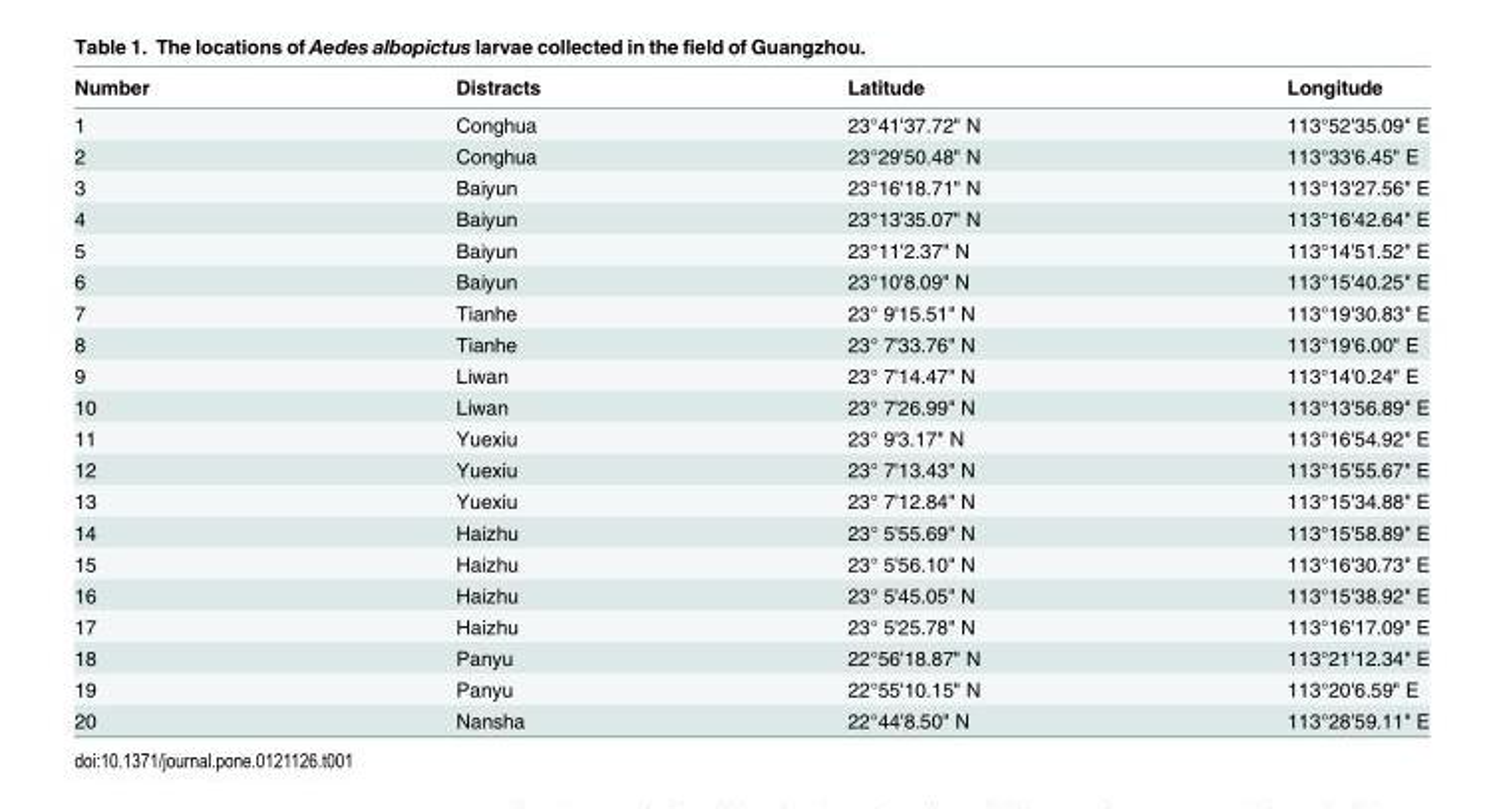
<table><thead><tr><td>Number</td><td>Distracts</td><td>Latitude</td><td>Longitude</td></tr></thead><tbody><tr><td>1</td><td>Conghua</td><td>23°41&#x27;37.72&quot; N</td><td>113°52&#x27;35.09&quot; E</td></tr><tr><td>2</td><td>Conghua</td><td>23°29&#x27;50.48&quot; N</td><td>113°33&#x27;6.45&quot; E</td></tr><tr><td>3</td><td>Baiyun</td><td>23°16&#x27;18.71&quot; N</td><td>113°13&#x27;27.56&quot; E</td></tr><tr><td>4</td><td>Baiyun</td><td>23°13&#x27;35.07&quot; N</td><td>113°16&#x27;42.64&quot; E</td></tr><tr><td>5</td><td>Baiyun</td><td>23°11&#x27;2.37&quot; N</td><td>113°14&#x27;51.52&quot; E</td></tr><tr><td>6</td><td>Baiyun</td><td>23°10&#x27;8.09&quot; N</td><td>113°15&#x27;40.25&quot; E</td></tr><tr><td>7</td><td>Tianhe</td><td>23° 9&#x27;15.51&quot; N</td><td>113°19&#x27;30.83&quot; E</td></tr><tr><td>8</td><td>Tianhe</td><td>23° 7&#x27;33.76&quot; N</td><td>113°19&#x27;6.00&quot; E</td></tr><tr><td>9</td><td>Liwan</td><td>23° 7&#x27;14.47&quot; N</td><td>113°14&#x27;0.24&quot; E</td></tr><tr><td>10</td><td>Liwan</td><td>23° 7&#x27;26.99&quot; N</td><td>113°13&#x27;56.89&quot; E</td></tr><tr><td>11</td><td>Yuexiu</td><td>23° 9&#x27;3.17&quot; N</td><td>113°16&#x27;54.92&quot; E</td></tr><tr><td>12</td><td>Yuexiu</td><td>23° 7&#x27;13.43&quot; N</td><td>113°15&#x27;55.67&quot; E</td></tr><tr><td>13</td><td>Yuexiu</td><td>23° 7&#x27;12.84&quot; N</td><td>113°15&#x27;34.88&quot; E</td></tr><tr><td>14</td><td>Haizhu</td><td>23° 5&#x27;55.69&quot; N</td><td>113°15&#x27;58.89&quot; E</td></tr><tr><td>15</td><td>Haizhu</td><td>23° 5&#x27;56.10&quot; N</td><td>113°16&#x27;30.73&quot; E</td></tr><tr><td>16</td><td>Haizhu</td><td>23° 5&#x27;45.05&quot; N</td><td>113°15&#x27;38.92&quot; E</td></tr><tr><td>17</td><td>Haizhu</td><td>23° 5&#x27;25.78&quot; N</td><td>113°16&#x27;17.09&quot; E</td></tr><tr><td>18</td><td>Panyu</td><td>22°56&#x27;18.87&quot; N</td><td>113°21&#x27;12.34&quot; E</td></tr><tr><td>19</td><td>Panyu</td><td>22°55&#x27;10.15&quot; N</td><td>113°20&#x27;6.59&quot; E</td></tr><tr><td>20</td><td>Nansha</td><td>22°44&#x27;8.50&quot; N</td><td>113°28&#x27;59.11&quot; E</td></tr></tbody></table>